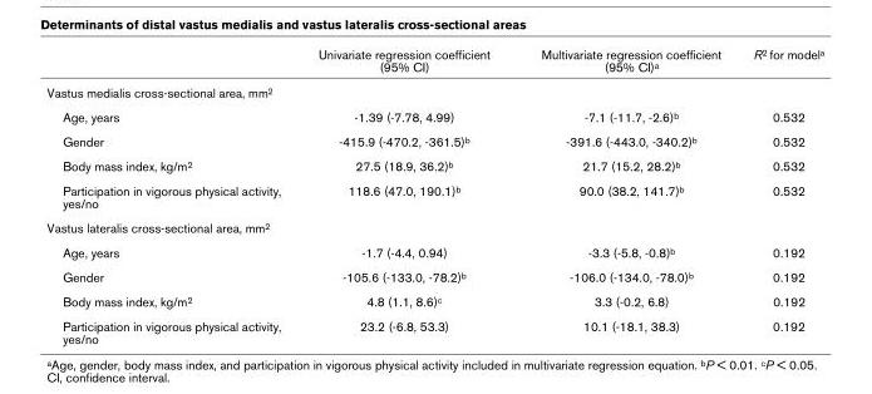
<table><thead><tr><td></td><td>Univariate regression coefficient (95% CI)</td><td>Multivariate regression coefficient (95% CI)<sup>a</sup></td><td>R<sup>2</sup> for model<sup>a</sup></td></tr></thead><tbody><tr><td colspan="4">Vastus medialis cross-sectional area, mm<sup>2</sup></td></tr><tr><td>Age, years</td><td>-1.39 (-7.78, 4.99)</td><td>-7.1 (-11.7, -2.6)<sup>b</sup></td><td>0.532</td></tr><tr><td>Gender</td><td>-415.9 (-470.2, -361.5)<sup>b</sup></td><td>-391.6 (-443.0, -340.2)<sup>b</sup></td><td>0.532</td></tr><tr><td>Body mass index, kg/m<sup>2</sup></td><td>27.5 (18.9, 36.2)<sup>b</sup></td><td>21.7 (15.2, 28.2)<sup>b</sup></td><td>0.532</td></tr><tr><td>Participation in vigorous physical activity, yes/no</td><td>118.6 (47.0, 190.1)<sup>b</sup></td><td>90.0 (38.2, 141.7)<sup>b</sup></td><td>0.532</td></tr><tr><td colspan="4">Vastus lateralis cross-sectional area, mm<sup>2</sup></td></tr><tr><td>Age, years</td><td>-1.7 (-4.4, 0.94)</td><td>-3.3 (-5.8, -0.8)<sup>b</sup></td><td>0.192</td></tr><tr><td>Gender</td><td>-105.6 (-133.0, -78.2)<sup>b</sup></td><td>-106.0 (-134.0, -78.0)<sup>b</sup></td><td>0.192</td></tr><tr><td>Body mass index, kg/m<sup>2</sup></td><td>4.8 (1.1, 8.6)<sup>c</sup></td><td>3.3 (-0.2, 6.8)</td><td>0.192</td></tr><tr><td>Participation in vigorous physical activity, yes/no</td><td>23.2 (-6.8, 53.3)</td><td>10.1 (-18.1, 38.3)</td><td>0.192</td></tr></tbody></table>